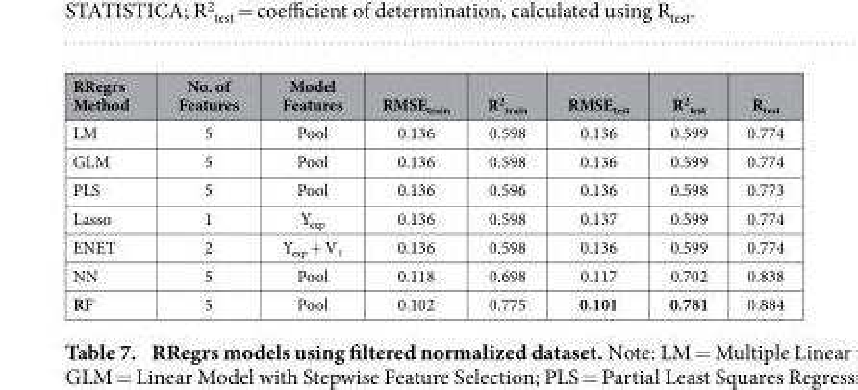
<table><thead><tr><td>RRegrs Method</td><td>No. of Features</td><td>Model Features</td><td>RMSE<sub>train</sub></td><td>R<sup>2</sup> <sub>train</sub></td><td>RMSE<sub>test</sub></td><td>R<sup>2</sup> <sub>test</sub></td><td>R<sub>test</sub></td></tr></thead><tbody><tr><td>LM</td><td>5</td><td>Pool</td><td>0.136</td><td>0.598</td><td>0.136</td><td>0.599</td><td>0.774</td></tr><tr><td>GLM</td><td>5</td><td>Pool</td><td>0.136</td><td>0.598</td><td>0.136</td><td>0.599</td><td>0.774</td></tr><tr><td>PLS</td><td>5</td><td>Pool</td><td>0.136</td><td>0.596</td><td>0.136</td><td>0.598</td><td>0.773</td></tr><tr><td>Lasso</td><td>1</td><td>Y<sub>exp</sub></td><td>0.136</td><td>0.598</td><td>0.137</td><td>0.599</td><td>0.774</td></tr><tr><td>ENET</td><td>2</td><td>Y<sub>exp</sub> + V<sub>1</sub></td><td>0.136</td><td>0.598</td><td>0.136</td><td>0.599</td><td>0.774</td></tr><tr><td>NN</td><td>5</td><td>Pool</td><td>0.118</td><td>0.698</td><td>0.117</td><td>0.702</td><td>0.838</td></tr><tr><td>RF</td><td>5</td><td>Pool</td><td>0.102</td><td>0.775</td><td>0.101</td><td>0.781</td><td>0.884</td></tr></tbody></table>